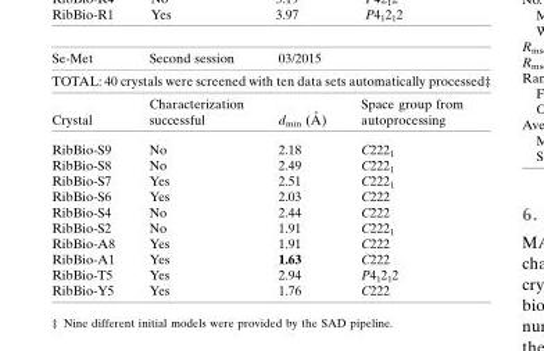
<table><thead><tr><td>Se-Met</td><td>Second session</td><td>03/2015</td><td></td></tr><tr><td colspan="4">TOTAL: 40 crystals were screened with ten data sets automatically processed‡</td></tr><tr><td>Crystal</td><td>Characterization successful</td><td>dmin (A˚ )</td><td>Space group from autoprocessing</td></tr></thead><tbody><tr><td>RibBio-S9</td><td>No</td><td>2.18</td><td>C222<sub>1</sub></td></tr><tr><td>RibBio-S8</td><td>No</td><td>2.49</td><td>C222<sub>1</sub></td></tr><tr><td>RibBio-S7</td><td>Yes</td><td>2.51</td><td>C222<sub>1</sub></td></tr><tr><td>RibBio-S6</td><td>Yes</td><td>2.03</td><td>C222</td></tr><tr><td>RibBio-S4</td><td>No</td><td>2.44</td><td>C222</td></tr><tr><td>RibBio-S2</td><td>No</td><td>1.91</td><td>C222<sub>1</sub></td></tr><tr><td>RibBio-A8</td><td>Yes</td><td>1.91</td><td>C222</td></tr><tr><td>RibBio-A1</td><td>Yes</td><td>1.63</td><td>C222</td></tr><tr><td>RibBio-T5</td><td>Yes</td><td>2.94</td><td>P4<sub>1</sub>2<sub>1</sub>2</td></tr><tr><td>RibBio-Y5</td><td>Yes</td><td>1.76</td><td>C222</td></tr></tbody></table>